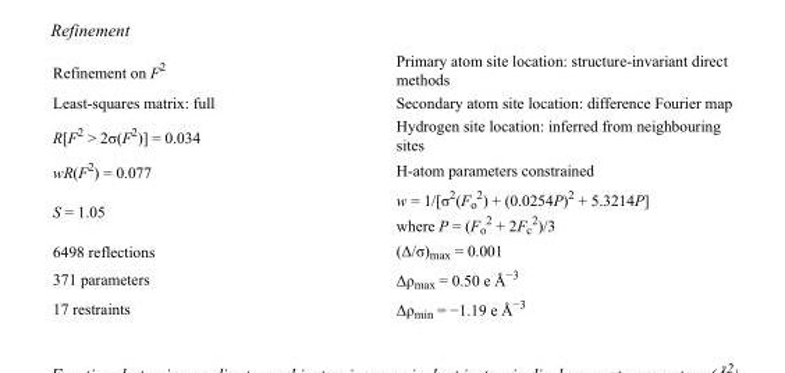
<table><tbody><tr><td>Refinement on F<sup>2</sup></td><td>Primary atom site location: structure-invariant direct methods</td></tr><tr><td>Least-squares matrix: full</td><td>Secondary atom site location: difference Fourier map</td></tr><tr><td>R[F<sup>2</sup> &gt; 2σ(F<sup>2</sup>)] = 0.034</td><td>Hydrogen site location: inferred from neighbouring sites</td></tr><tr><td>wR(F<sup>2</sup>) = 0.077</td><td>H-atom parameters constrained</td></tr><tr><td>S = 1.05</td><td>w = 1/[σ<sup>2</sup>(F<sub>o</sub> <sup>2</sup>) + (0.0254P)<sup>2</sup> + 5.3214P] where P = (F<sub>o</sub> <sup>2</sup> + 2F<sub>c</sub> <sup>2</sup>)/3</td></tr><tr><td>6498 reflections</td><td>(Δ/σ)<sub>max</sub> = 0.001</td></tr><tr><td>371 parameters</td><td>Δρ<sub>max</sub> = 0.50 e Å<sup>−3</sup></td></tr><tr><td>17 restraints</td><td>Δρ<sub>min</sub> = −1.19 e Å<sup>−3</sup></td></tr></tbody></table>